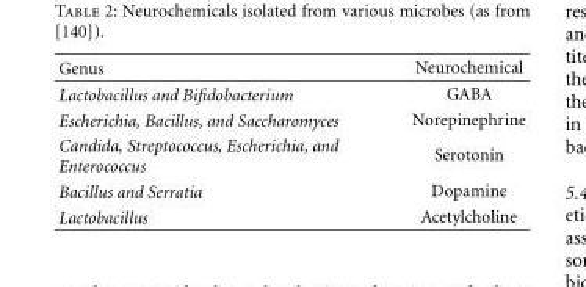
<table><thead><tr><td>Genus</td><td>Neurochemical</td></tr></thead><tbody><tr><td>Lactobacillus and Bifidobacterium</td><td>GABA</td></tr><tr><td>Escherichia, Bacillus, and Saccharomyces</td><td>Norepinephrine</td></tr><tr><td>Candida, Streptococcus, Escherichia, and Enterococcus</td><td>Serotonin</td></tr><tr><td>Bacillus and Serratia</td><td>Dopamine</td></tr><tr><td>Lactobacillus</td><td>Acetylcholine</td></tr></tbody></table>